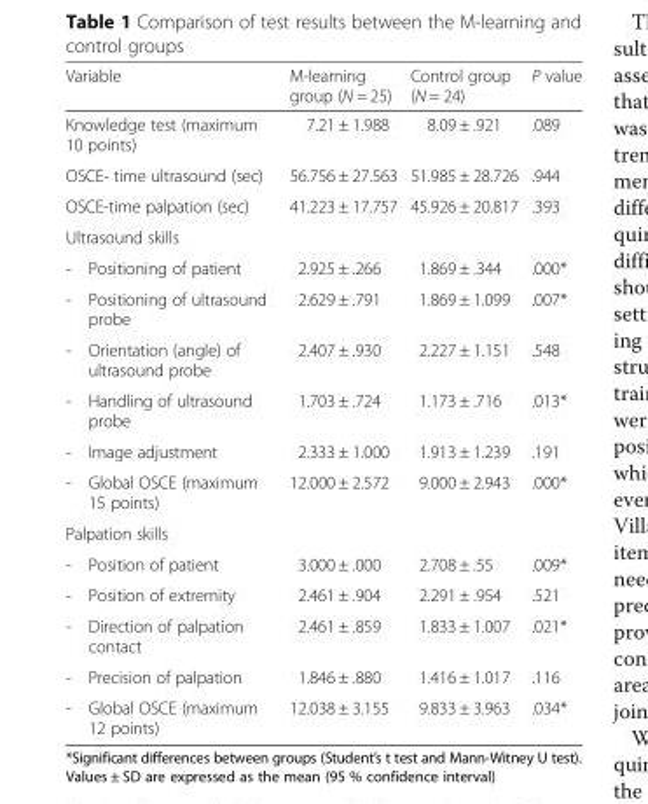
<table><thead><tr><td>Variable</td><td>M-learning group (N = 25)</td><td>Control group (N = 24)</td><td>P value</td></tr></thead><tbody><tr><td>Knowledge test (maximum 10 points)</td><td>7.21 ± 1.988</td><td>8.09 ± .921</td><td>.089</td></tr><tr><td>OSCE- time ultrasound (sec)</td><td>56.756 ± 27.563</td><td>51.985 ± 28.726</td><td>.944</td></tr><tr><td>OSCE-time palpation (sec)</td><td>41.223 ± 17.757</td><td>45.926 ± 20.817</td><td>.393</td></tr><tr><td colspan="4">Ultrasound skills</td></tr><tr><td>- Positioning of patient</td><td>2.925 ± .266</td><td>1.869 ± .344</td><td>.000*</td></tr><tr><td>- Positioning of ultrasound probe</td><td>2.629 ± .791</td><td>1.869 ± 1.099</td><td>.007*</td></tr><tr><td>- Orientation (angle) of ultrasound probe</td><td>2.407 ± .930</td><td>2.227 ± 1.151</td><td>.548</td></tr><tr><td>- Handling of ultrasound probe</td><td>1.703 ± .724</td><td>1.173 ± .716</td><td>.013*</td></tr><tr><td>- Image adjustment</td><td>2.333 ± 1.000</td><td>1.913 ± 1.239</td><td>.191</td></tr><tr><td>- Global OSCE (maximum 15 points)</td><td>12.000 ± 2.572</td><td>9.000 ± 2.943</td><td>.000*</td></tr><tr><td colspan="4">Palpation skills</td></tr><tr><td>- Position of patient</td><td>3.000 ± .000</td><td>2.708 ± .55</td><td>.009*</td></tr><tr><td>- Position of extremity</td><td>2.461 ± .904</td><td>2.291 ± .954</td><td>.521</td></tr><tr><td>- Direction of palpation contact</td><td>2.461 ± .859</td><td>1.833 ± 1.007</td><td>.021*</td></tr><tr><td>- Precision of palpation</td><td>1.846 ± .880</td><td>1.416 ± 1.017</td><td>.116</td></tr><tr><td>- Global OSCE (maximum 12 points)</td><td>12.038 ± 3.155</td><td>9.833 ± 3.963</td><td>.034*</td></tr></tbody></table>